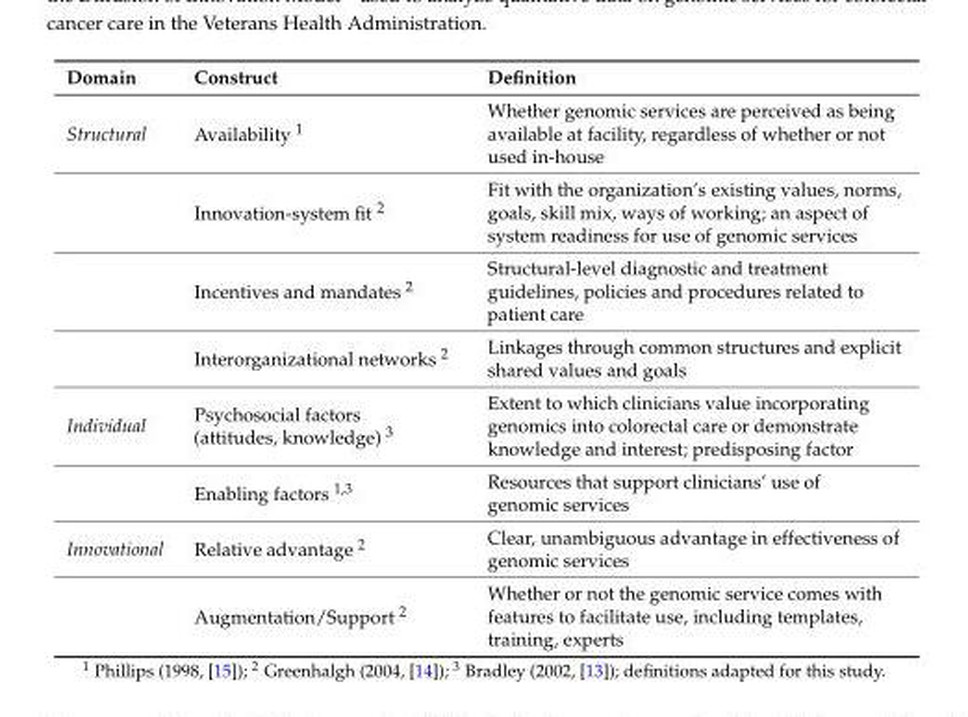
<table><thead><tr><td>Domain</td><td>Construct</td><td>Definition</td></tr></thead><tbody><tr><td rowspan="4">Structural</td><td>Availability <sup>1</sup></td><td>Whether genomic services are perceived as being available at facility, regardless of whether or not used in-house</td></tr><tr><td>Innovation-system fit <sup>2</sup></td><td>Fit with the organization’s existing values, norms, goals, skill mix, ways of working; an aspect of system readiness for use of genomic services</td></tr><tr><td>Incentives and mandates <sup>2</sup></td><td>Structural-level diagnostic and treatment guidelines, policies and procedures related to patient care</td></tr><tr><td>Interorganizational networks <sup>2</sup></td><td>Linkages through common structures and explicit shared values and goals</td></tr><tr><td rowspan="2">Individual</td><td>Psychosocial factors (attitudes, knowledge) <sup>3</sup></td><td>Extent to which clinicians value incorporating genomics into colorectal care or demonstrate knowledge and interest; predisposing factor</td></tr><tr><td>Enabling factors <sup>1,3</sup></td><td>Resources that support clinicians’ use of genomic services</td></tr><tr><td rowspan="2">Innovational</td><td>Relative advantage <sup>2</sup></td><td>Clear, unambiguous advantage in effectiveness of genomic services</td></tr><tr><td>Augmentation/Support <sup>2</sup></td><td>Whether or not the genomic service comes with features to facilitate use, including templates, training, experts</td></tr></tbody></table>